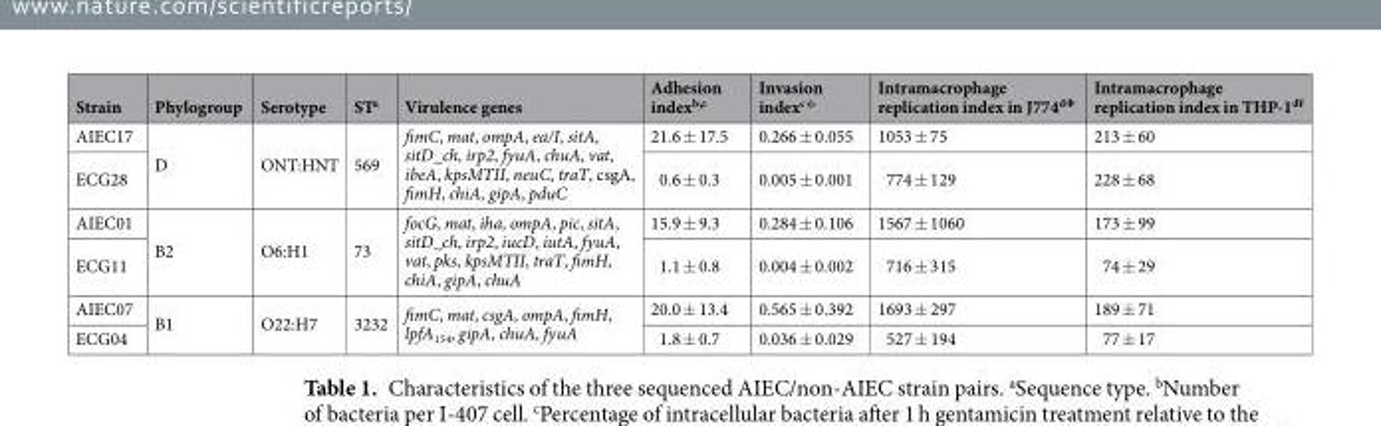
<table><thead><tr><td>Strain</td><td>Phylogroup</td><td>Serotype</td><td>ST<sup>a</sup></td><td>Virulence genes</td><td>Adhesion index<sup>bϕ</sup></td><td>Invasion index<sup>c φ</sup></td><td>Intramacrophage replication index in J774<sup>dΦ</sup></td><td>Intramacrophage replication index in THP-1<sup>d¥</sup></td></tr></thead><tbody><tr><td>AIEC17</td><td rowspan="2">D</td><td rowspan="2">ONT:HNT</td><td rowspan="2">569</td><td rowspan="2">fimC, mat, ompA, ea/I, sitA, sitD_ch, irp2, fyuA, chuA, vat, ibeA, kpsMTII, neuC, traT, csgA, fimH, chiA, gipA, pduC</td><td>21.6 ± 17.5</td><td>0.266 ± 0.055</td><td>1053 ± 75</td><td>213 ± 60</td></tr><tr><td>ECG28</td><td>0.6 ± 0.3</td><td>0.005 ± 0.001</td><td>774 ± 129</td><td>228 ± 68</td></tr><tr><td>AIEC01</td><td rowspan="2">B2</td><td rowspan="2">O6:H1</td><td rowspan="2">73</td><td rowspan="2">focG, mat, iha, ompA, pic, sitA, sitD_ch, irp2, iucD, iutA, fyuA, vat, pks, kpsMTII, traT, fimH, chiA, gipA, chuA</td><td>15.9 ± 9.3</td><td>0.284 ± 0.106</td><td>1567 ± 1060</td><td>173 ± 99</td></tr><tr><td>ECG11</td><td>1.1 ± 0.8</td><td>0.004 ± 0.002</td><td>716 ± 315</td><td>74 ± 29</td></tr><tr><td>AIEC07</td><td rowspan="2">B1</td><td rowspan="2">O22:H7</td><td rowspan="2">3232</td><td rowspan="2">fimC, mat, csgA, ompA, fimH, lpfA<sub>154</sub>, gipA, chuA, fyuA</td><td>20.0 ± 13.4</td><td>0.565 ± 0.392</td><td>1693 ± 297</td><td>189 ± 71</td></tr><tr><td>ECG04</td><td>1.8 ± 0.7</td><td>0.036 ± 0.029</td><td>527 ± 194</td><td>77 ± 17</td></tr></tbody></table>